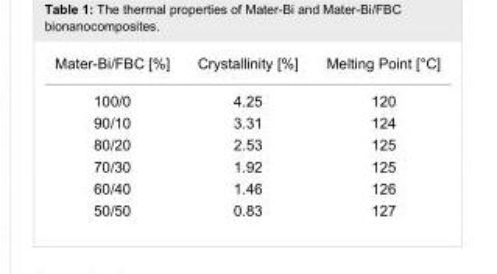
<table><tbody><tr><td>Mater-Bi/FBC [%]</td><td>Crystallinity [%]</td><td>Melting Point [°C]</td></tr><tr><td>100/0</td><td>4.25</td><td>120</td></tr><tr><td>90/10</td><td>3.31</td><td>124</td></tr><tr><td>80/20</td><td>2.53</td><td>125</td></tr><tr><td>70/30</td><td>1.92</td><td>125</td></tr><tr><td>60/40</td><td>1.46</td><td>126</td></tr><tr><td>50/50</td><td>0.83</td><td>127</td></tr></tbody></table>